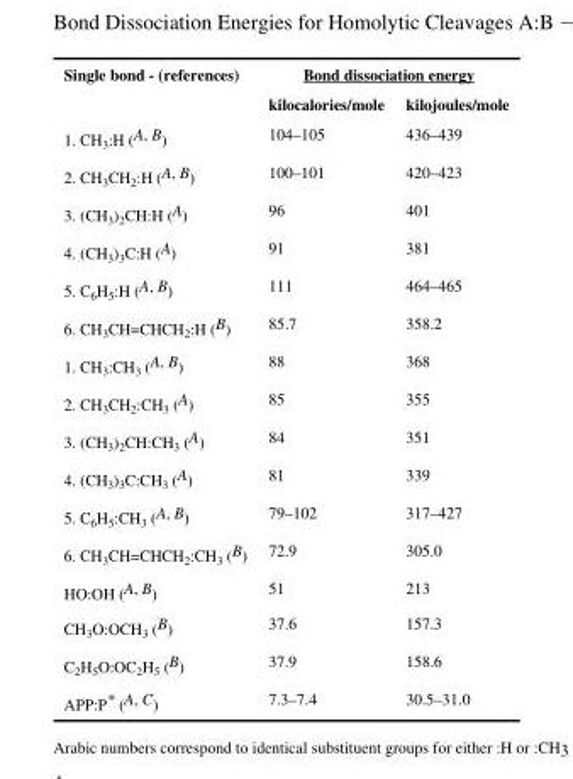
<table><thead><tr><td rowspan="2">Single bond - (references)</td><td colspan="2">Bond dissociation energy</td></tr><tr><td>kilocalories/mole</td><td>kilojoules/mole</td></tr></thead><tbody><tr><td>1. CH<sub>3</sub>:H (A, B)</td><td>104–105</td><td>436–439</td></tr><tr><td>2. CH<sub>3</sub>CH<sub>2</sub>:H (A, B)</td><td>100–101</td><td>420–423</td></tr><tr><td>3. (CH<sub>3</sub>)<sub>2</sub>CH:H (A)</td><td>96</td><td>401</td></tr><tr><td>4. (CH<sub>3</sub>)<sub>3</sub>C:H (A)</td><td>91</td><td>381</td></tr><tr><td>5. C<sub>6</sub>H<sub>5</sub>:H (A, B)</td><td>111</td><td>464–465</td></tr><tr><td>6. CH<sub>3</sub>CH=CHCH<sub>2</sub>:H (B)</td><td>85.7</td><td>358.2</td></tr><tr><td>1. CH<sub>3</sub>:CH<sub>3</sub> (A, B)</td><td>88</td><td>368</td></tr><tr><td>2. CH<sub>3</sub>CH<sub>2</sub>:CH<sub>3</sub> (A)</td><td>85</td><td>355</td></tr><tr><td>3. (CH<sub>3</sub>)<sub>2</sub>CH:CH<sub>3</sub> (A)</td><td>84</td><td>351</td></tr><tr><td>4. (CH<sub>3</sub>)<sub>3</sub>C:CH<sub>3</sub> (A)</td><td>81</td><td>339</td></tr><tr><td>5. C<sub>6</sub>H<sub>5</sub>:CH<sub>3</sub> (A, B)</td><td>79–102</td><td>317–427</td></tr><tr><td>6. CH<sub>3</sub>CH=CHCH<sub>2</sub>:CH<sub>3</sub> (B)</td><td>72.9</td><td>305.0</td></tr><tr><td>HO:OH (A, B)</td><td>51</td><td>213</td></tr><tr><td>CH<sub>3</sub>O:OCH<sub>3</sub> (B)</td><td>37.6</td><td>157.3</td></tr><tr><td>C<sub>2</sub>H<sub>5</sub>O:OC<sub>2</sub>H<sub>5</sub> (B)</td><td>37.9</td><td>158.6</td></tr><tr><td>APP:P* (A, C)</td><td>7.3–7.4</td><td>30.5–31.0</td></tr></tbody></table>